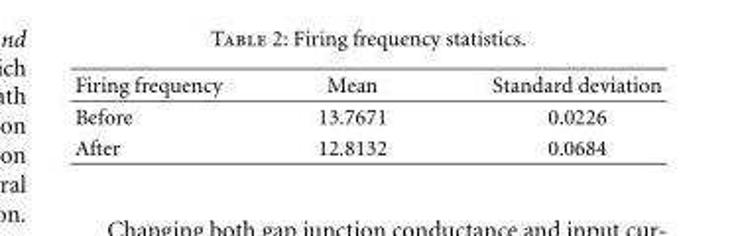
<table><thead><tr><td>Firing frequency</td><td>Mean</td><td>Standard deviation</td></tr></thead><tbody><tr><td>Before</td><td>13.7671</td><td>0.0226</td></tr><tr><td>After</td><td>12.8132</td><td>0.0684</td></tr></tbody></table>